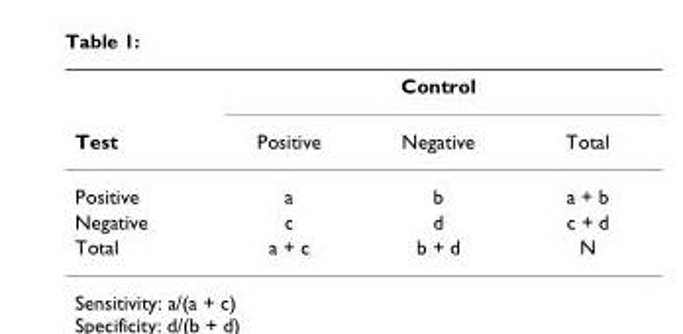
<table><thead><tr><td rowspan="2">Test</td><td colspan="3">Control</td></tr><tr><td>Positive</td><td>Negative</td><td>Total</td></tr></thead><tbody><tr><td>Positive</td><td>a</td><td>b</td><td>a + b</td></tr><tr><td>Negative</td><td>c</td><td>d</td><td>c + d</td></tr><tr><td>Total</td><td>a + c</td><td>b + d</td><td>N</td></tr></tbody></table>